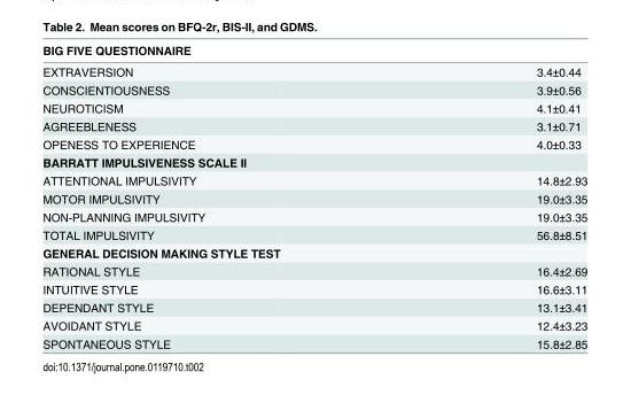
<table><thead><tr><td>BIG FIVE QUESTIONNAIRE</td><td></td></tr></thead><tbody><tr><td>EXTRAVERSION</td><td>3.4±0.44</td></tr><tr><td>CONSCIENTIOUSNESS</td><td>3.9±0.56</td></tr><tr><td>NEUROTICISM</td><td>4.1±0.41</td></tr><tr><td>AGREEBLENESS</td><td>3.1±0.71</td></tr><tr><td>OPENESS TO EXPERIENCE</td><td>4.0±0.33</td></tr><tr><td colspan="2">BARRATT IMPULSIVENESS SCALE II</td></tr><tr><td>ATTENTIONAL IMPULSIVITY</td><td>14.8±2.93</td></tr><tr><td>MOTOR IMPULSIVITY</td><td>19.0±3.35</td></tr><tr><td>NON-PLANNING IMPULSIVITY</td><td>19.0±3.35</td></tr><tr><td>TOTAL IMPULSIVITY</td><td>56.8±8.51</td></tr><tr><td colspan="2">GENERAL DECISION MAKING STYLE TEST</td></tr><tr><td>RATIONAL STYLE</td><td>16.4±2.69</td></tr><tr><td>INTUITIVE STYLE</td><td>16.6±3.11</td></tr><tr><td>DEPENDANT STYLE</td><td>13.1±3.41</td></tr><tr><td>AVOIDANT STYLE</td><td>12.4±3.23</td></tr><tr><td>SPONTANEOUS STYLE</td><td>15.8±2.85</td></tr></tbody></table>